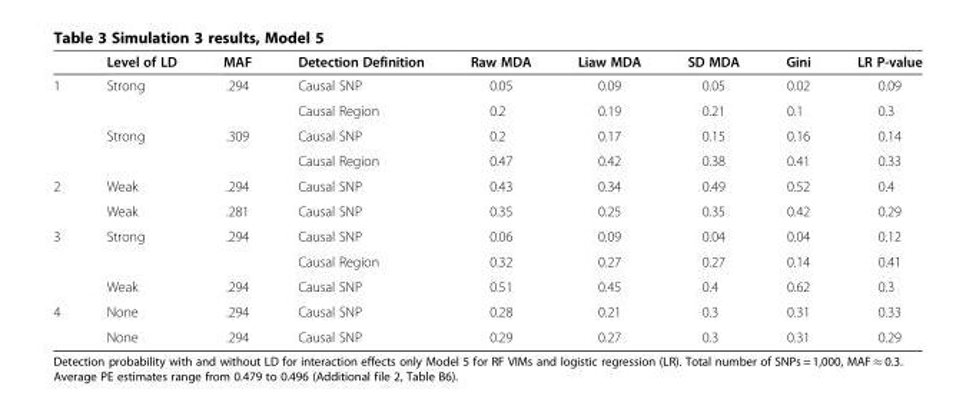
<table><thead><tr><td></td><td>Level of LD</td><td>MAF</td><td>Detection Definition</td><td>Raw MDA</td><td>Liaw MDA</td><td>SD MDA</td><td>Gini</td><td>LR P-value</td></tr></thead><tbody><tr><td rowspan="4">1</td><td>Strong</td><td>.294</td><td>Causal SNP</td><td>0.05</td><td>0.09</td><td>0.05</td><td>0.02</td><td>0.09</td></tr><tr><td></td><td></td><td>Causal Region</td><td>0.2</td><td>0.19</td><td>0.21</td><td>0.1</td><td>0.3</td></tr><tr><td>Strong</td><td>.309</td><td>Causal SNP</td><td>0.2</td><td>0.17</td><td>0.15</td><td>0.16</td><td>0.14</td></tr><tr><td></td><td></td><td>Causal Region</td><td>0.47</td><td>0.42</td><td>0.38</td><td>0.41</td><td>0.33</td></tr><tr><td rowspan="2">2</td><td>Weak</td><td>.294</td><td>Causal SNP</td><td>0.43</td><td>0.34</td><td>0.49</td><td>0.52</td><td>0.4</td></tr><tr><td>Weak</td><td>.281</td><td>Causal SNP</td><td>0.35</td><td>0.25</td><td>0.35</td><td>0.42</td><td>0.29</td></tr><tr><td rowspan="3">3</td><td>Strong</td><td>.294</td><td>Causal SNP</td><td>0.06</td><td>0.09</td><td>0.04</td><td>0.04</td><td>0.12</td></tr><tr><td></td><td></td><td>Causal Region</td><td>0.32</td><td>0.27</td><td>0.27</td><td>0.14</td><td>0.41</td></tr><tr><td>Weak</td><td>.294</td><td>Causal SNP</td><td>0.51</td><td>0.45</td><td>0.4</td><td>0.62</td><td>0.3</td></tr><tr><td rowspan="2">4</td><td>None</td><td>.294</td><td>Causal SNP</td><td>0.28</td><td>0.21</td><td>0.3</td><td>0.31</td><td>0.33</td></tr><tr><td>None</td><td>.294</td><td>Causal SNP</td><td>0.29</td><td>0.27</td><td>0.3</td><td>0.31</td><td>0.29</td></tr></tbody></table>